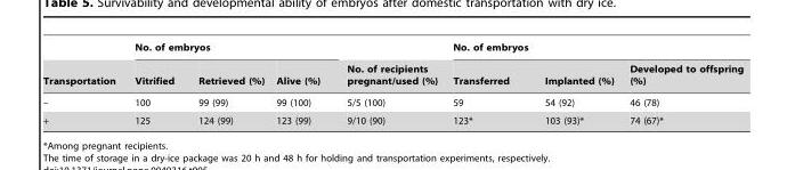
<table><thead><tr><td rowspan="2">Transportation</td><td colspan="3">No. of embryos</td><td rowspan="2">No. of recipients pregnant/used (%)</td><td colspan="3">No. of embryos</td></tr><tr><td>Vitrified</td><td>Retrieved (%)</td><td>Alive (%)</td><td>Transferred</td><td>Implanted (%)</td><td>Developed to offspring (%)</td></tr></thead><tbody><tr><td>–</td><td>100</td><td>99 (99)</td><td>99 (100)</td><td>5/5 (100)</td><td>59</td><td>54 (92)</td><td>46 (78)</td></tr><tr><td>+</td><td>125</td><td>124 (99)</td><td>123 (99)</td><td>9/10 (90)</td><td>123*</td><td>103 (93)*</td><td>74 (67)*</td></tr></tbody></table>